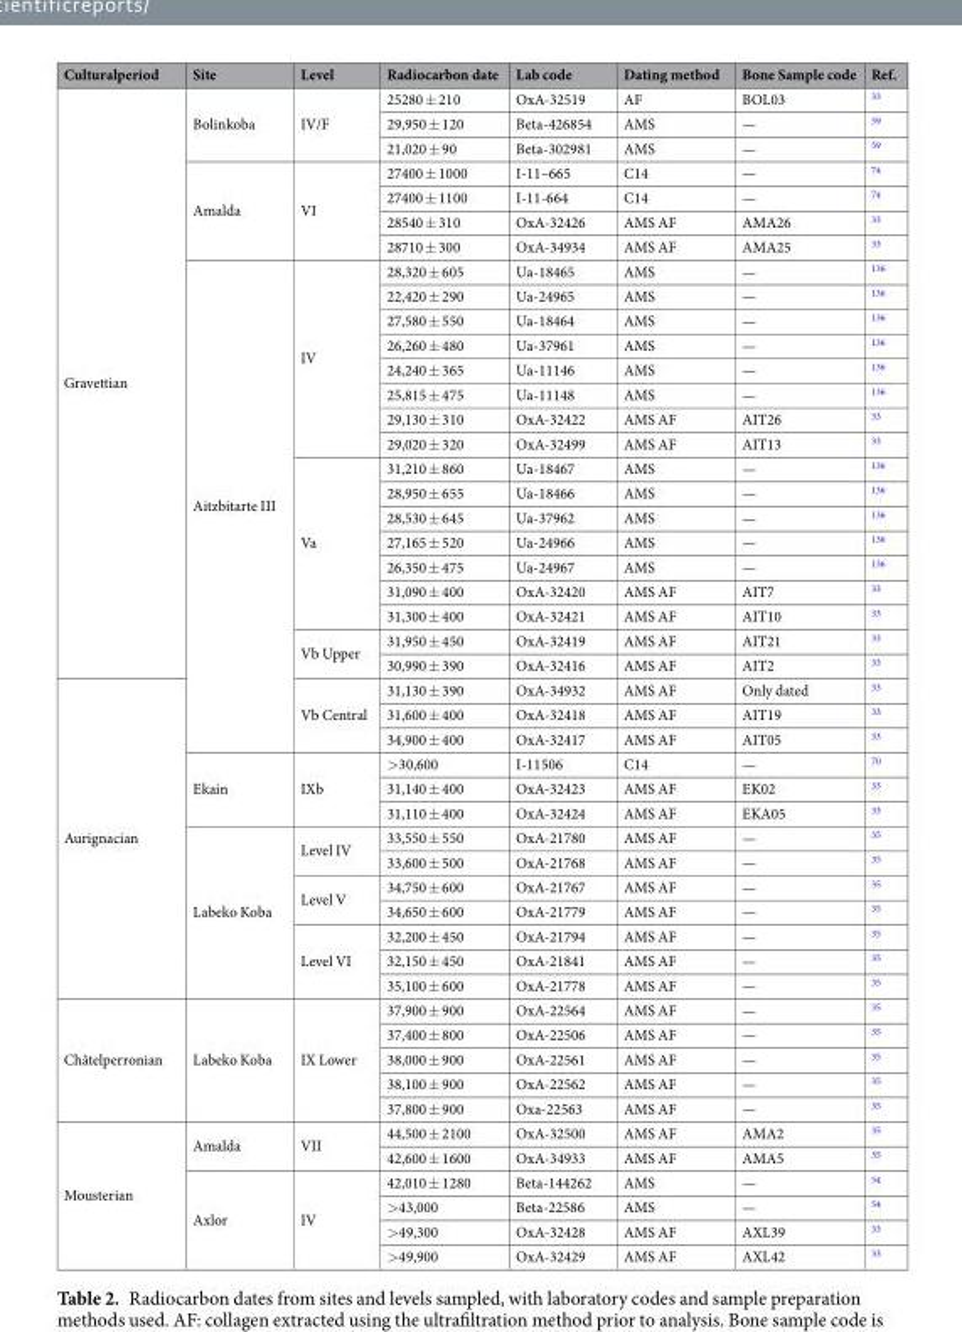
<table><thead><tr><td>Culturalperiod</td><td>Site</td><td>Level</td><td>Radiocarbon date</td><td>Lab code</td><td>Dating method</td><td>Bone Sample code</td><td>Ref.</td></tr></thead><tbody><tr><td rowspan="24">Gravettian</td><td rowspan="3">Bolinkoba</td><td rowspan="3">IV/F</td><td>25280 ± 210</td><td>OxA-32519</td><td>AF</td><td>BOL03</td><td><sup>33</sup></td></tr><tr><td>29,950 ± 120</td><td>Beta-426854</td><td>AMS</td><td>—</td><td><sup>59</sup></td></tr><tr><td>21,020 ± 90</td><td>Beta-302981</td><td>AMS</td><td>—</td><td><sup>59</sup></td></tr><tr><td rowspan="4">Amalda</td><td rowspan="4">VI</td><td>27400 ± 1000</td><td>I-11–665</td><td>C14</td><td>—</td><td><sup>74</sup></td></tr><tr><td>27400 ± 1100</td><td>I-11-664</td><td>C14</td><td>—</td><td><sup>74</sup></td></tr><tr><td>28540 ± 310</td><td>OxA-32426</td><td>AMS AF</td><td>AMA26</td><td><sup>33</sup></td></tr><tr><td>28710 ± 300</td><td>OxA-34934</td><td>AMS AF</td><td>AMA25</td><td><sup>33</sup></td></tr><tr><td rowspan="20">Aitzbitarte III</td><td rowspan="8">IV</td><td>28,320 ± 605</td><td>Ua-18465</td><td>AMS</td><td>—</td><td><sup>136</sup></td></tr><tr><td>22,420 ± 290</td><td>Ua-24965</td><td>AMS</td><td>—</td><td><sup>136</sup></td></tr><tr><td>27,580 ± 550</td><td>Ua-18464</td><td>AMS</td><td>—</td><td><sup>136</sup></td></tr><tr><td>26,260 ± 480</td><td>Ua-37961</td><td>AMS</td><td>—</td><td><sup>136</sup></td></tr><tr><td>24,240 ± 365</td><td>Ua-11146</td><td>AMS</td><td>—</td><td><sup>136</sup></td></tr><tr><td>25,815 ± 475</td><td>Ua-11148</td><td>AMS</td><td>—</td><td><sup>136</sup></td></tr><tr><td>29,130 ± 310</td><td>OxA-32422</td><td>AMS AF</td><td>AIT26</td><td><sup>33</sup></td></tr><tr><td>29,020 ± 320</td><td>OxA-32499</td><td>AMS AF</td><td>AIT13</td><td><sup>33</sup></td></tr><tr><td rowspan="7">Va</td><td>31,210 ± 860</td><td>Ua-18467</td><td>AMS</td><td>—</td><td><sup>136</sup></td></tr><tr><td>28,950 ± 655</td><td>Ua-18466</td><td>AMS</td><td>—</td><td><sup>136</sup></td></tr><tr><td>28,530 ± 645</td><td>Ua-37962</td><td>AMS</td><td>—</td><td><sup>136</sup></td></tr><tr><td>27,165 ± 520</td><td>Ua-24966</td><td>AMS</td><td>—</td><td><sup>136</sup></td></tr><tr><td>26,350 ± 475</td><td>Ua-24967</td><td>AMS</td><td>—</td><td><sup>136</sup></td></tr><tr><td>31,090 ± 400</td><td>OxA-32420</td><td>AMS AF</td><td>AIT7</td><td><sup>33</sup></td></tr><tr><td>31,300 ± 400</td><td>OxA-32421</td><td>AMS AF</td><td>AIT10</td><td><sup>33</sup></td></tr><tr><td rowspan="2">Vb Upper</td><td>31,950 ± 450</td><td>OxA-32419</td><td>AMS AF</td><td>AIT21</td><td><sup>33</sup></td></tr><tr><td>30,990 ± 390</td><td>OxA-32416</td><td>AMS AF</td><td>AIT2</td><td><sup>33</sup></td></tr><tr><td rowspan="13">Aurignacian</td><td rowspan="3">Vb Central</td><td>31,130 ± 390</td><td>OxA-34932</td><td>AMS AF</td><td>Only dated</td><td><sup>33</sup></td></tr><tr><td>31,600 ± 400</td><td>OxA-32418</td><td>AMS AF</td><td>AIT19</td><td><sup>33</sup></td></tr><tr><td>34,900 ± 400</td><td>OxA-32417</td><td>AMS AF</td><td>AIT05</td><td><sup>33</sup></td></tr><tr><td rowspan="3">Ekain</td><td rowspan="3">IXb</td><td>&gt;30,600</td><td>I-11506</td><td>C14</td><td>—</td><td><sup>70</sup></td></tr><tr><td>31,140 ± 400</td><td>OxA-32423</td><td>AMS AF</td><td>EK02</td><td><sup>33</sup></td></tr><tr><td>31,110 ± 400</td><td>OxA-32424</td><td>AMS AF</td><td>EKA05</td><td><sup>33</sup></td></tr><tr><td rowspan="7">Labeko Koba</td><td rowspan="2">Level IV</td><td>33,550 ± 550</td><td>OxA-21780</td><td>AMS AF</td><td>—</td><td><sup>35</sup></td></tr><tr><td>33,600 ± 500</td><td>OxA-21768</td><td>AMS AF</td><td>—</td><td><sup>35</sup></td></tr><tr><td rowspan="2">Level V</td><td>34,750 ± 600</td><td>OxA-21767</td><td>AMS AF</td><td>—</td><td><sup>35</sup></td></tr><tr><td>34,650 ± 600</td><td>OxA-21779</td><td>AMS AF</td><td>—</td><td><sup>35</sup></td></tr><tr><td rowspan="3">Level VI</td><td>32,200 ± 450</td><td>OxA-21794</td><td>AMS AF</td><td>—</td><td><sup>35</sup></td></tr><tr><td>32,150 ± 450</td><td>OxA-21841</td><td>AMS AF</td><td>—</td><td><sup>35</sup></td></tr><tr><td>35,100 ± 600</td><td>OxA-21778</td><td>AMS AF</td><td>—</td><td><sup>35</sup></td></tr><tr><td rowspan="5">Châtelperronian</td><td rowspan="5">Labeko Koba</td><td rowspan="5">IX Lower</td><td>37,900 ± 900</td><td>OxA-22564</td><td>AMS AF</td><td>—</td><td><sup>35</sup></td></tr><tr><td>37,400 ± 800</td><td>OxA-22506</td><td>AMS AF</td><td>—</td><td><sup>35</sup></td></tr><tr><td>38,000 ± 900</td><td>OxA-22561</td><td>AMS AF</td><td>—</td><td><sup>35</sup></td></tr><tr><td>38,100 ± 900</td><td>OxA-22562</td><td>AMS AF</td><td>—</td><td><sup>35</sup></td></tr><tr><td>37,800 ± 900</td><td>Oxa-22563</td><td>AMS AF</td><td>—</td><td><sup>35</sup></td></tr><tr><td rowspan="6">Mousterian</td><td rowspan="2">Amalda</td><td rowspan="2">VII</td><td>44,500 ± 2100</td><td>OxA-32500</td><td>AMS AF</td><td>AMA2</td><td><sup>35</sup></td></tr><tr><td>42,600 ± 1600</td><td>OxA-34933</td><td>AMS AF</td><td>AMA5</td><td><sup>35</sup></td></tr><tr><td rowspan="4">Axlor</td><td rowspan="4">IV</td><td>42,010 ± 1280</td><td>Beta-144262</td><td>AMS</td><td>—</td><td><sup>54</sup></td></tr><tr><td>&gt;43,000</td><td>Beta-22586</td><td>AMS</td><td>—</td><td><sup>54</sup></td></tr><tr><td>&gt;49,300</td><td>OxA-32428</td><td>AMS AF</td><td>AXL39</td><td><sup>33</sup></td></tr><tr><td>&gt;49,900</td><td>OxA-32429</td><td>AMS AF</td><td>AXL42</td><td><sup>33</sup></td></tr></tbody></table>